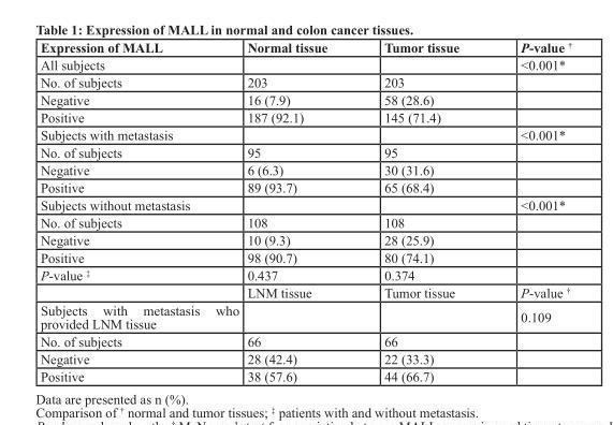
<table><thead><tr><td>Expression of MALL</td><td>Normal tissue</td><td>Tumor tissue</td><td>P-value <sup>†</sup></td></tr></thead><tbody><tr><td>All subjects</td><td></td><td></td><td>&lt;0.001*</td></tr><tr><td>No. of subjects</td><td>203</td><td>203</td><td></td></tr><tr><td>Negative</td><td>16 (7.9)</td><td>58 (28.6)</td><td></td></tr><tr><td>Positive</td><td>187 (92.1)</td><td>145 (71.4)</td><td></td></tr><tr><td>Subjects with metastasis</td><td></td><td></td><td>&lt;0.001*</td></tr><tr><td>No. of subjects</td><td>95</td><td>95</td><td></td></tr><tr><td>Negative</td><td>6 (6.3)</td><td>30 (31.6)</td><td></td></tr><tr><td>Positive</td><td>89 (93.7)</td><td>65 (68.4)</td><td></td></tr><tr><td>Subjects without metastasis</td><td></td><td></td><td>&lt;0.001*</td></tr><tr><td>No. of subjects</td><td>108</td><td>108</td><td></td></tr><tr><td>Negative</td><td>10 (9.3)</td><td>28 (25.9)</td><td></td></tr><tr><td>Positive</td><td>98 (90.7)</td><td>80 (74.1)</td><td></td></tr><tr><td rowspan="2">P-value <sup>‡</sup></td><td>0.437</td><td>0.374</td><td></td></tr><tr><td>LNM tissue</td><td>Tumor tissue</td><td>P-value <sup>†</sup></td></tr><tr><td>Subjects with metastasis who provided LNM tissue</td><td></td><td></td><td>0.109</td></tr><tr><td>No. of subjects</td><td>66</td><td>66</td><td></td></tr><tr><td>Negative</td><td>28 (42.4)</td><td>22 (33.3)</td><td></td></tr><tr><td>Positive</td><td>38 (57.6)</td><td>44 (66.7)</td><td></td></tr></tbody></table>